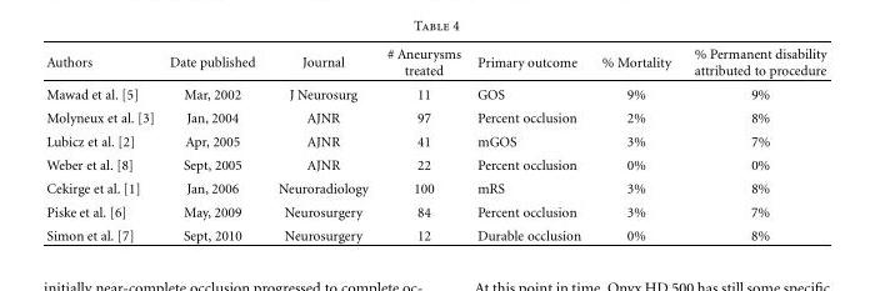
<table><thead><tr><td>Authors</td><td>Date published</td><td>Journal</td><td># Aneurysms treated</td><td>Primary outcome</td><td>% Mortality</td><td>% Permanent disability attributed to procedure</td></tr></thead><tbody><tr><td>Mawad et al. [5]</td><td>Mar, 2002</td><td>J Neurosurg</td><td>11</td><td>GOS</td><td>9%</td><td>9%</td></tr><tr><td>Molyneux et al. [3]</td><td>Jan, 2004</td><td>AJNR</td><td>97</td><td>Percent occlusion</td><td>2%</td><td>8%</td></tr><tr><td>Lubicz et al. [2]</td><td>Apr, 2005</td><td>AJNR</td><td>41</td><td>mGOS</td><td>3%</td><td>7%</td></tr><tr><td>Weber et al. [8]</td><td>Sept, 2005</td><td>AJNR</td><td>22</td><td>Percent occlusion</td><td>0%</td><td>0%</td></tr><tr><td>Cekirge et al. [1]</td><td>Jan, 2006</td><td>Neuroradiology</td><td>100</td><td>mRS</td><td>3%</td><td>8%</td></tr><tr><td>Piske et al. [6]</td><td>May, 2009</td><td>Neurosurgery</td><td>84</td><td>Percent occlusion</td><td>3%</td><td>7%</td></tr><tr><td>Simon et al. [7]</td><td>Sept, 2010</td><td>Neurosurgery</td><td>12</td><td>Durable occlusion</td><td>0%</td><td>8%</td></tr></tbody></table>